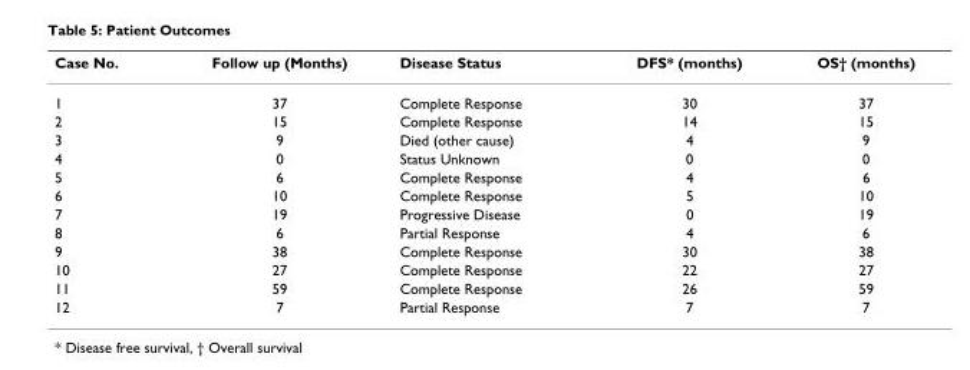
<table><thead><tr><td>Case No.</td><td>Follow up (Months)</td><td>Disease Status</td><td>DFS* (months)</td><td>OS† (months)</td></tr></thead><tbody><tr><td>1</td><td>37</td><td>Complete Response</td><td>30</td><td>37</td></tr><tr><td>2</td><td>15</td><td>Complete Response</td><td>14</td><td>15</td></tr><tr><td>3</td><td>9</td><td>Died (other cause)</td><td>4</td><td>9</td></tr><tr><td>4</td><td>0</td><td>Status Unknown</td><td>0</td><td>0</td></tr><tr><td>5</td><td>6</td><td>Complete Response</td><td>4</td><td>6</td></tr><tr><td>6</td><td>10</td><td>Complete Response</td><td>5</td><td>10</td></tr><tr><td>7</td><td>19</td><td>Progressive Disease</td><td>0</td><td>19</td></tr><tr><td>8</td><td>6</td><td>Partial Response</td><td>4</td><td>6</td></tr><tr><td>9</td><td>38</td><td>Complete Response</td><td>30</td><td>38</td></tr><tr><td>10</td><td>27</td><td>Complete Response</td><td>22</td><td>27</td></tr><tr><td>11</td><td>59</td><td>Complete Response</td><td>26</td><td>59</td></tr><tr><td>12</td><td>7</td><td>Partial Response</td><td>7</td><td>7</td></tr></tbody></table>